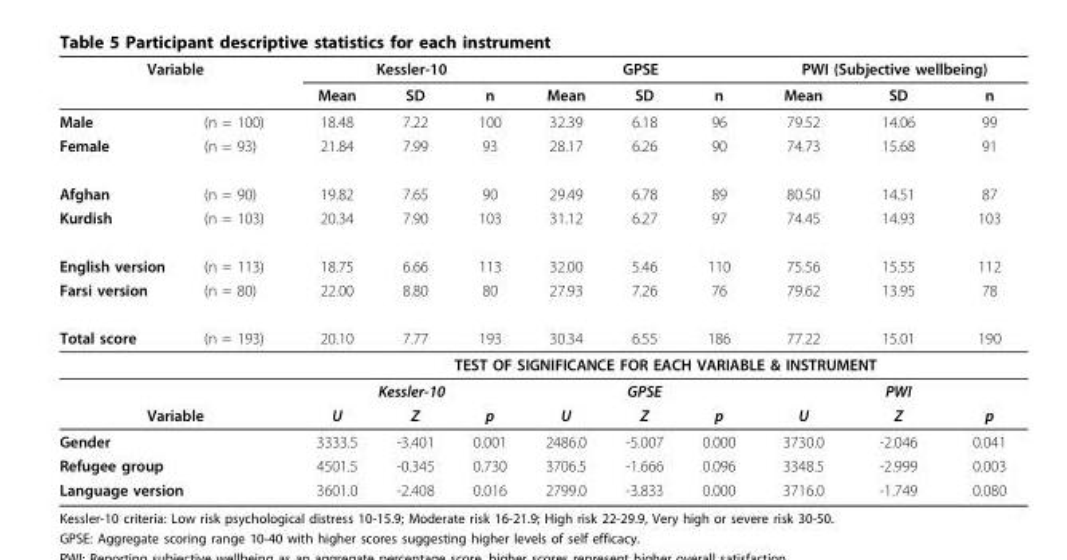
<table><thead><tr><td colspan="2">Variable</td><td colspan="3">Kessler-10</td><td colspan="3">GPSE</td><td colspan="3">PWI (Subjective wellbeing)</td></tr><tr><td></td><td></td><td>Mean</td><td>SD</td><td>n</td><td>Mean</td><td>SD</td><td>n</td><td>Mean</td><td>SD</td><td>n</td></tr></thead><tbody><tr><td>Male</td><td>(n = 100)</td><td>18.48</td><td>7.22</td><td>100</td><td>32.39</td><td>6.18</td><td>96</td><td>79.52</td><td>14.06</td><td>99</td></tr><tr><td>Female</td><td>(n = 93)</td><td>21.84</td><td>7.99</td><td>93</td><td>28.17</td><td>6.26</td><td>90</td><td>74.73</td><td>15.68</td><td>91</td></tr><tr><td>Afghan</td><td>(n = 90)</td><td>19.82</td><td>7.65</td><td>90</td><td>29.49</td><td>6.78</td><td>89</td><td>80.50</td><td>14.51</td><td>87</td></tr><tr><td>Kurdish</td><td>(n = 103)</td><td>20.34</td><td>7.90</td><td>103</td><td>31.12</td><td>6.27</td><td>97</td><td>74.45</td><td>14.93</td><td>103</td></tr><tr><td>English version</td><td>(n = 113)</td><td>18.75</td><td>6.66</td><td>113</td><td>32.00</td><td>5.46</td><td>110</td><td>75.56</td><td>15.55</td><td>112</td></tr><tr><td>Farsi version</td><td>(n = 80)</td><td>22.00</td><td>8.80</td><td>80</td><td>27.93</td><td>7.26</td><td>76</td><td>79.62</td><td>13.95</td><td>78</td></tr><tr><td rowspan="3">Total score</td><td>(n = 193)</td><td>20.10</td><td>7.77</td><td>193</td><td>30.34</td><td>6.55</td><td>186</td><td>77.22</td><td>15.01</td><td>190</td></tr><tr><td></td><td colspan="9">TEST OF SIGNIFICANCE FOR EACH VARIABLE &amp; INSTRUMENT</td></tr><tr><td></td><td colspan="3">Kessler-10</td><td></td><td>GPSE</td><td></td><td></td><td>PWI</td><td></td></tr><tr><td colspan="2">Variable</td><td>U</td><td>Z</td><td>p</td><td>U</td><td>Z</td><td>p</td><td>U</td><td>Z</td><td>p</td></tr><tr><td colspan="2">Gender</td><td>3333.5</td><td>-3.401</td><td>0.001</td><td>2486.0</td><td>-5.007</td><td>0.000</td><td>3730.0</td><td>-2.046</td><td>0.041</td></tr><tr><td colspan="2">Refugee group</td><td>4501.5</td><td>-0.345</td><td>0.730</td><td>3706.5</td><td>-1.666</td><td>0.096</td><td>3348.5</td><td>-2.999</td><td>0.003</td></tr><tr><td colspan="2">Language version</td><td>3601.0</td><td>-2.408</td><td>0.016</td><td>2799.0</td><td>-3.833</td><td>0.000</td><td>3716.0</td><td>-1.749</td><td>0.080</td></tr></tbody></table>